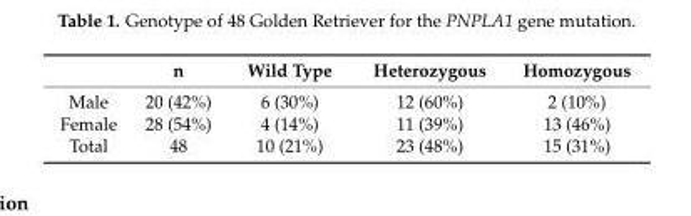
<table><thead><tr><td></td><td>n</td><td>Wild Type</td><td>Heterozygous</td><td>Homozygous</td></tr></thead><tbody><tr><td>Male</td><td>20 (42%)</td><td>6 (30%)</td><td>12 (60%)</td><td>2 (10%)</td></tr><tr><td>Female</td><td>28 (54%)</td><td>4 (14%)</td><td>11 (39%)</td><td>13 (46%)</td></tr><tr><td>Total</td><td>48</td><td>10 (21%)</td><td>23 (48%)</td><td>15 (31%)</td></tr></tbody></table>